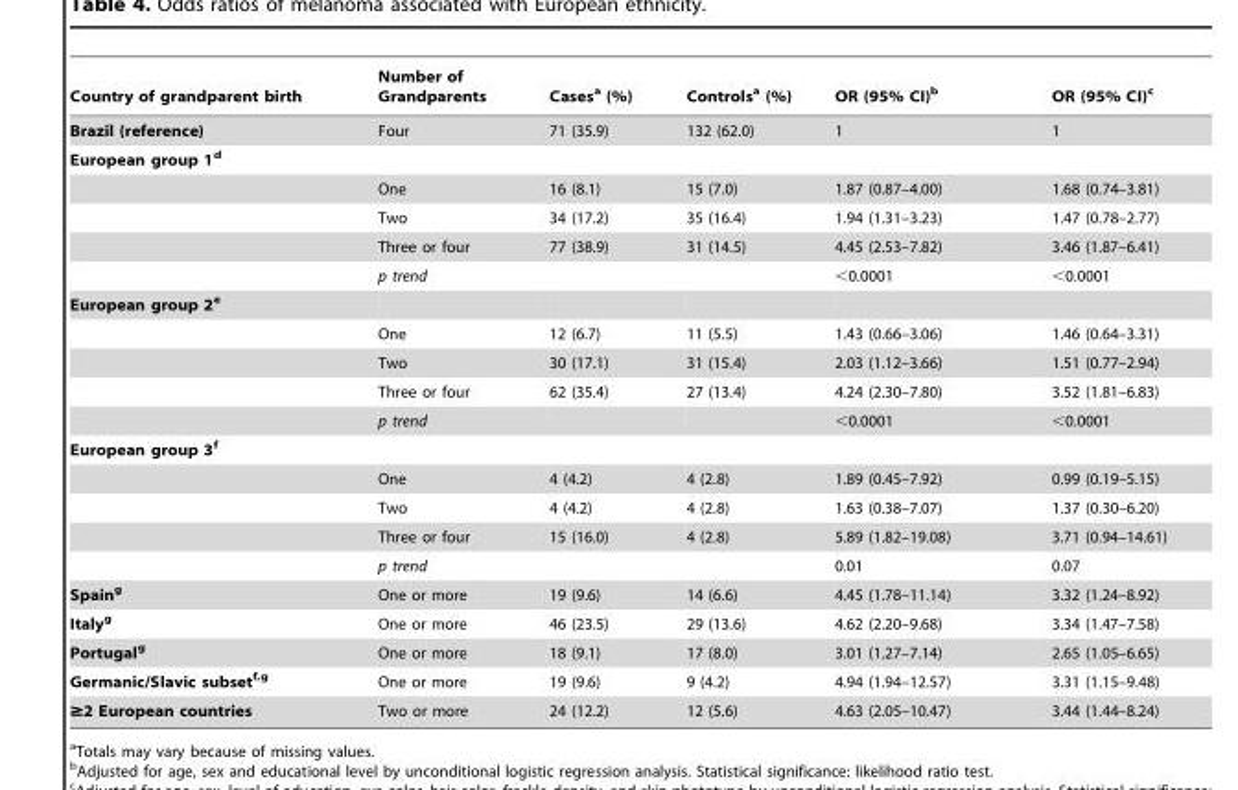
<table><thead><tr><td>Country of grandparent birth</td><td>Number of Grandparents</td><td>Cases<sup>a</sup> (%)</td><td>Controls<sup>a</sup> (%)</td><td>OR (95% CI)<sup>b</sup></td><td>OR (95% CI)<sup>c</sup></td></tr></thead><tbody><tr><td>Brazil (reference)</td><td>Four</td><td>71 (35.9)</td><td>132 (62.0)</td><td>1</td><td>1</td></tr><tr><td colspan="6">European group 1d</td></tr><tr><td></td><td>One</td><td>16 (8.1)</td><td>15 (7.0)</td><td>1.87 (0.87–4.00)</td><td>1.68 (0.74–3.81)</td></tr><tr><td></td><td>Two</td><td>34 (17.2)</td><td>35 (16.4)</td><td>1.94 (1.31–3.23)</td><td>1.47 (0.78–2.77)</td></tr><tr><td></td><td>Three or four</td><td>77 (38.9)</td><td>31 (14.5)</td><td>4.45 (2.53–7.82)</td><td>3.46 (1.87–6.41)</td></tr><tr><td></td><td>p trend</td><td></td><td></td><td>&lt;0.0001</td><td>&lt;0.0001</td></tr><tr><td colspan="6">European group 2e</td></tr><tr><td></td><td>One</td><td>12 (6.7)</td><td>11 (5.5)</td><td>1.43 (0.66–3.06)</td><td>1.46 (0.64–3.31)</td></tr><tr><td></td><td>Two</td><td>30 (17.1)</td><td>31 (15.4)</td><td>2.03 (1.12–3.66)</td><td>1.51 (0.77–2.94)</td></tr><tr><td></td><td>Three or four</td><td>62 (35.4)</td><td>27 (13.4)</td><td>4.24 (2.30–7.80)</td><td>3.52 (1.81–6.83)</td></tr><tr><td></td><td>p trend</td><td></td><td></td><td>&lt;0.0001</td><td>&lt;0.0001</td></tr><tr><td colspan="6">European group 3f</td></tr><tr><td></td><td>One</td><td>4 (4.2)</td><td>4 (2.8)</td><td>1.89 (0.45–7.92)</td><td>0.99 (0.19–5.15)</td></tr><tr><td></td><td>Two</td><td>4 (4.2)</td><td>4 (2.8)</td><td>1.63 (0.38–7.07)</td><td>1.37 (0.30–6.20)</td></tr><tr><td></td><td>Three or four</td><td>15 (16.0)</td><td>4 (2.8)</td><td>5.89 (1.82–19.08)</td><td>3.71 (0.94–14.61)</td></tr><tr><td></td><td>p trend</td><td></td><td></td><td>0.01</td><td>0.07</td></tr><tr><td>Spaing</td><td>One or more</td><td>19 (9.6)</td><td>14 (6.6)</td><td>4.45 (1.78–11.14)</td><td>3.32 (1.24–8.92)</td></tr><tr><td>Italyg</td><td>One or more</td><td>46 (23.5)</td><td>29 (13.6)</td><td>4.62 (2.20–9.68)</td><td>3.34 (1.47–7.58)</td></tr><tr><td>Portugalg</td><td>One or more</td><td>18 (9.1)</td><td>17 (8.0)</td><td>3.01 (1.27–7.14)</td><td>2.65 (1.05–6.65)</td></tr><tr><td>Germanic/Slavic subsetf<sup>,</sup>g</td><td>One or more</td><td>19 (9.6)</td><td>9 (4.2)</td><td>4.94 (1.94–12.57)</td><td>3.31 (1.15–9.48)</td></tr><tr><td>≥2 European countries</td><td>Two or more</td><td>24 (12.2)</td><td>12 (5.6)</td><td>4.63 (2.05–10.47)</td><td>3.44 (1.44–8.24)</td></tr></tbody></table>